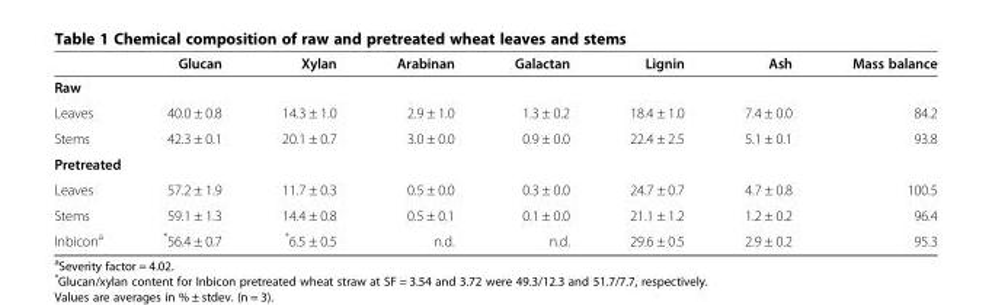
<table><thead><tr><td></td><td>Glucan</td><td>Xylan</td><td>Arabinan</td><td>Galactan</td><td>Lignin</td><td>Ash</td><td>Mass balance</td></tr></thead><tbody><tr><td colspan="8">Raw</td></tr><tr><td>Leaves</td><td>40.0 ± 0.8</td><td>14.3 ± 1.0</td><td>2.9 ± 1.0</td><td>1.3 ± 0.2</td><td>18.4 ± 1.0</td><td>7.4 ± 0.0</td><td>84.2</td></tr><tr><td>Stems</td><td>42.3 ± 0.1</td><td>20.1 ± 0.7</td><td>3.0 ± 0.0</td><td>0.9 ± 0.0</td><td>22.4 ± 2.5</td><td>5.1 ± 0.1</td><td>93.8</td></tr><tr><td colspan="8">Pretreated</td></tr><tr><td>Leaves</td><td>57.2 ± 1.9</td><td>11.7 ± 0.3</td><td>0.5 ± 0.0</td><td>0.3 ± 0.0</td><td>24.7 ± 0.7</td><td>4.7 ± 0.8</td><td>100.5</td></tr><tr><td>Stems</td><td>59.1 ± 1.3</td><td>14.4 ± 0.8</td><td>0.5 ± 0.1</td><td>0.1 ± 0.0</td><td>21.1 ± 1.2</td><td>1.2 ± 0.2</td><td>96.4</td></tr><tr><td>Inbicon<sup>a</sup></td><td>*56.4 ± 0.7</td><td>*6.5 ± 0.5</td><td>n.d.</td><td>n.d.</td><td>29.6 ± 0.5</td><td>2.9 ± 0.2</td><td>95.3</td></tr></tbody></table>